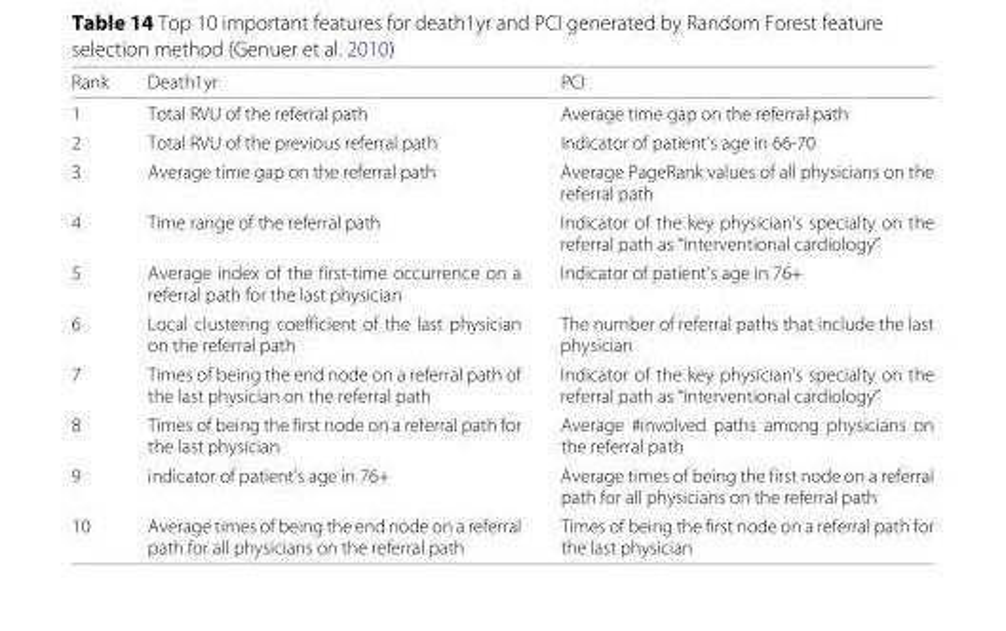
<table><thead><tr><td>Rank</td><td>Death1yr</td><td>PCI</td></tr></thead><tbody><tr><td>1</td><td>Total RVU of the referral path</td><td>Average time gap on the referral path</td></tr><tr><td>2</td><td>Total RVU of the previous referral path</td><td>Indicator of patient’s age in 66-70</td></tr><tr><td>3</td><td>Average time gap on the referral path</td><td>Average PageRank values of all physicians on the referral path</td></tr><tr><td>4</td><td>Time range of the referral path</td><td>Indicator of the key physician’s specialty on the referral path as “interventional cardiology”</td></tr><tr><td>5</td><td>Average index of the first-time occurrence on a referral path for the last physician</td><td>Indicator of patient’s age in 76+</td></tr><tr><td>6</td><td>Local clustering coefficient of the last physician on the referral path</td><td>The number of referral paths that include the last physician</td></tr><tr><td>7</td><td>Times of being the end node on a referral path of the last physician on the referral path</td><td>Indicator of the key physician’s specialty on the referral path as “interventional cardiology”</td></tr><tr><td>8</td><td>Times of being the first node on a referral path for the last physician</td><td>Average #involved paths among physicians on the referral path</td></tr><tr><td>9</td><td>indicator of patient’s age in 76+</td><td>Average times of being the first node on a referral path for all physicians on the referral path</td></tr><tr><td>10</td><td>Average times of being the end node on a referral path for all physicians on the referral path</td><td>Times of being the first node on a referral path for the last physician</td></tr></tbody></table>